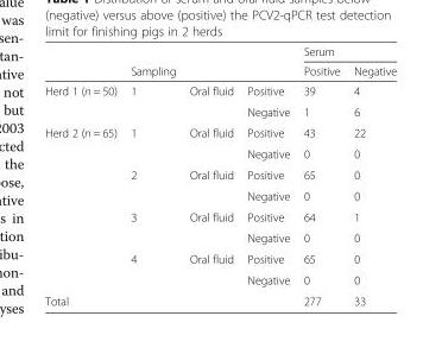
<table><thead><tr><td rowspan="2"></td><td rowspan="2">Sampling</td><td rowspan="2"></td><td rowspan="2"></td><td colspan="2">Serum</td></tr><tr><td>Positive</td><td>Negative</td></tr></thead><tbody><tr><td rowspan="2">Herd 1 (n = 50)</td><td>1</td><td>Oral fluid</td><td>Positive</td><td>39</td><td>4</td></tr><tr><td></td><td></td><td>Negative</td><td>1</td><td>6</td></tr><tr><td rowspan="8">Herd 2 (n = 65)</td><td>1</td><td>Oral fluid</td><td>Positive</td><td>43</td><td>22</td></tr><tr><td></td><td></td><td>Negative</td><td>0</td><td>0</td></tr><tr><td>2</td><td>Oral fluid</td><td>Positive</td><td>65</td><td>0</td></tr><tr><td></td><td></td><td>Negative</td><td>0</td><td>0</td></tr><tr><td>3</td><td>Oral fluid</td><td>Positive</td><td>64</td><td>1</td></tr><tr><td></td><td></td><td>Negative</td><td>0</td><td>0</td></tr><tr><td>4</td><td>Oral fluid</td><td>Positive</td><td>65</td><td>0</td></tr><tr><td></td><td></td><td>Negative</td><td>0</td><td>0</td></tr><tr><td>Total</td><td></td><td></td><td></td><td>277</td><td>33</td></tr></tbody></table>